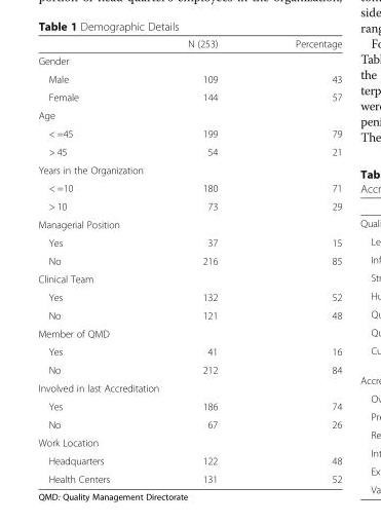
<table><thead><tr><td></td><td>N (253)</td><td>Percentage</td></tr></thead><tbody><tr><td colspan="3">Gender</td></tr><tr><td>Male</td><td>109</td><td>43</td></tr><tr><td>Female</td><td>144</td><td>57</td></tr><tr><td colspan="3">Age</td></tr><tr><td>&lt; =45</td><td>199</td><td>79</td></tr><tr><td>&gt; 45</td><td>54</td><td>21</td></tr><tr><td colspan="3">Years in the Organization</td></tr><tr><td>&lt; =10</td><td>180</td><td>71</td></tr><tr><td>&gt; 10</td><td>73</td><td>29</td></tr><tr><td colspan="3">Managerial Position</td></tr><tr><td>Yes</td><td>37</td><td>15</td></tr><tr><td>No</td><td>216</td><td>85</td></tr><tr><td colspan="3">Clinical Team</td></tr><tr><td>Yes</td><td>132</td><td>52</td></tr><tr><td>No</td><td>121</td><td>48</td></tr><tr><td colspan="3">Member of QMD</td></tr><tr><td>Yes</td><td>41</td><td>16</td></tr><tr><td>No</td><td>212</td><td>84</td></tr><tr><td colspan="3">Involved in last Accreditation</td></tr><tr><td>Yes</td><td>186</td><td>74</td></tr><tr><td>No</td><td>67</td><td>26</td></tr><tr><td colspan="3">Work Location</td></tr><tr><td>Headquarters</td><td>122</td><td>48</td></tr><tr><td>Health Centers</td><td>131</td><td>52</td></tr></tbody></table>